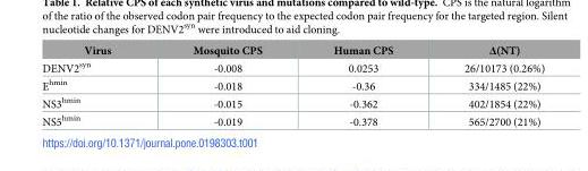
<table><thead><tr><td>Virus</td><td>Mosquito CPS</td><td>Human CPS</td><td>Δ(NT)</td></tr></thead><tbody><tr><td>DENV2<sup>syn</sup></td><td>-0.008</td><td>0.0253</td><td>26/10173 (0.26%)</td></tr><tr><td>E<sup>hmin</sup></td><td>-0.018</td><td>-0.36</td><td>334/1485 (22%)</td></tr><tr><td>NS3<sup>hmin</sup></td><td>-0.015</td><td>-0.362</td><td>402/1854 (22%)</td></tr><tr><td>NS5<sup>hmin</sup></td><td>-0.019</td><td>-0.378</td><td>565/2700 (21%)</td></tr></tbody></table>